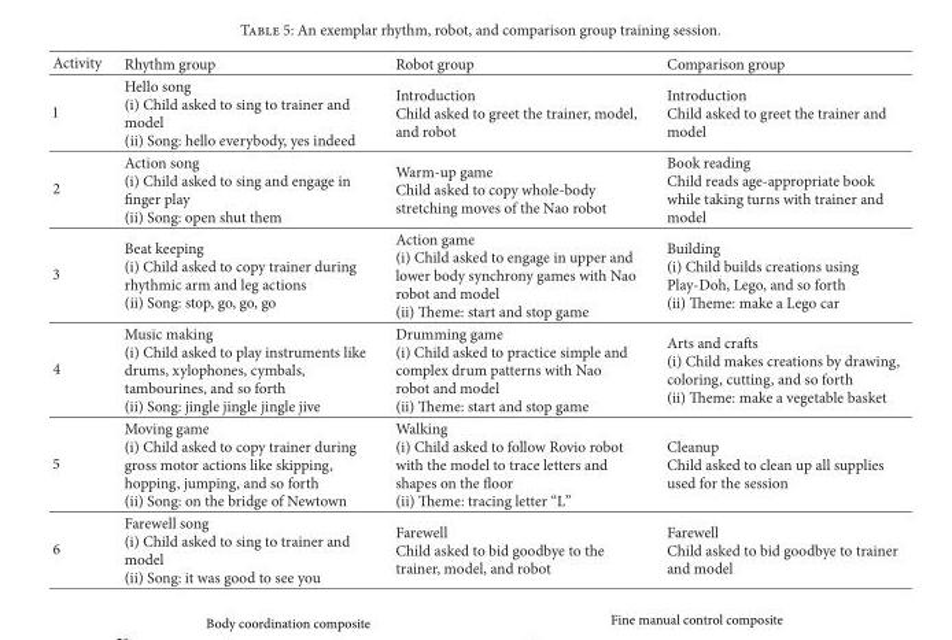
<table><thead><tr><td>Activity</td><td>Rhythm group</td><td>Robot group</td><td>Comparison group</td></tr></thead><tbody><tr><td>1</td><td>Hello song (i) Child asked to sing to trainer and model (ii) Song: hello everybody, yes indeed</td><td>Introduction Child asked to greet the trainer, model, and robot</td><td>Introduction Child asked to greet the trainer and model</td></tr><tr><td>2</td><td>Action song (i) Child asked to sing and engage in finger play (ii) Song: open shut them</td><td>Warm-up game Child asked to copy whole-body stretching moves of the Nao robot</td><td>Book reading Child reads age-appropriate book while taking turns with trainer and model</td></tr><tr><td>3</td><td>Beat keeping (i) Child asked to copy trainer during rhythmic arm and leg actions (ii) Song: stop, go, go, go</td><td>Action game (i) Child asked to engage in upper and lower body synchrony games with Nao robot and model (ii) Theme: start and stop game</td><td>Building (i) Child builds creations using Play-Doh, Lego, and so forth (ii) Theme: make a Lego car</td></tr><tr><td>4</td><td>Music making (i) Child asked to play instruments like drums, xylophones, cymbals, tambourines, and so forth (ii) Song: jingle jingle jingle jive</td><td>Drumming game (i) Child asked to practice simple and complex drum patterns with Nao robot and model (ii) Theme: start and stop game</td><td>Arts and crafts (i) Child makes creations by drawing, coloring, cutting, and so forth (ii) Theme: make a vegetable basket</td></tr><tr><td>5</td><td>Moving game (i) Child asked to copy trainer during gross motor actions like skipping, hopping, jumping, and so forth (ii) Song: on the bridge of Newtown</td><td>Walking (i) Child asked to follow Rovio robot with the model to trace letters and shapes on the floor (ii) Theme: tracing letter “L”</td><td>Cleanup Child asked to clean up all supplies used for the session</td></tr><tr><td>6</td><td>Farewell song (i) Child asked to sing to trainer and model (ii) Song: it was good to see you</td><td>Farewell Child asked to bid goodbye to the trainer, model, and robot</td><td>Farewell Child asked to bid goodbye to trainer and model</td></tr></tbody></table>